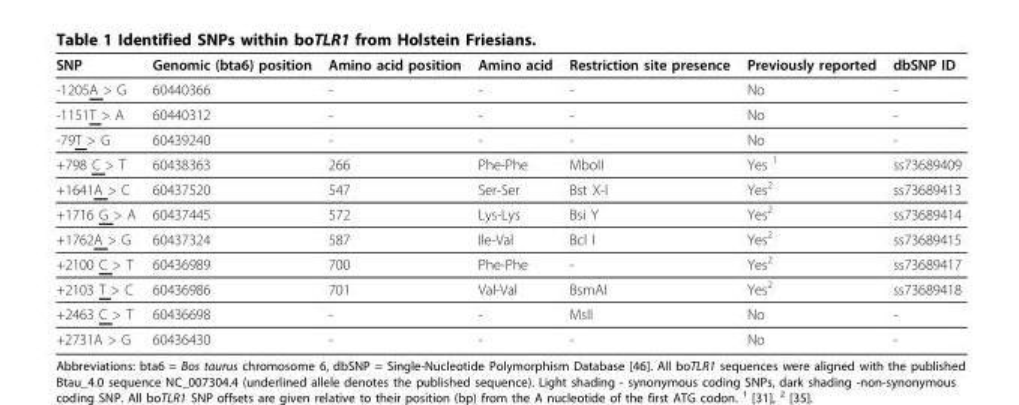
<table><thead><tr><td>SNP</td><td>Genomic (bta6) position</td><td>Amino acid position</td><td>Amino acid</td><td>Restriction site presence</td><td>Previously reported</td><td>dbSNP ID</td></tr></thead><tbody><tr><td>-1205A &gt; G</td><td>60440366</td><td>-</td><td>-</td><td>-</td><td>No</td><td>-</td></tr><tr><td>-1151T &gt; A</td><td>60440312</td><td>-</td><td>-</td><td>-</td><td>No</td><td>-</td></tr><tr><td>-79T &gt; G</td><td>60439240</td><td>-</td><td>-</td><td>-</td><td>No</td><td>-</td></tr><tr><td>+798 C &gt; T</td><td>60438363</td><td>266</td><td>Phe-Phe</td><td>MboII</td><td>Yes <sup>1</sup></td><td>ss73689409</td></tr><tr><td>+1641A &gt; C</td><td>60437520</td><td>547</td><td>Ser-Ser</td><td>Bst X-I</td><td>Yes<sup>2</sup></td><td>ss73689413</td></tr><tr><td>+1716 G &gt; A</td><td>60437445</td><td>572</td><td>Lys-Lys</td><td>Bsi Y</td><td>Yes<sup>2</sup></td><td>ss73689414</td></tr><tr><td>+1762A &gt; G</td><td>60437324</td><td>587</td><td>Ile-Val</td><td>Bcl I</td><td>Yes<sup>2</sup></td><td>ss73689415</td></tr><tr><td>+2100 C &gt; T</td><td>60436989</td><td>700</td><td>Phe-Phe</td><td>-</td><td>Yes<sup>2</sup></td><td>ss73689417</td></tr><tr><td>+2103 T &gt; C</td><td>60436986</td><td>701</td><td>Val-Val</td><td>BsmAI</td><td>Yes<sup>2</sup></td><td>ss73689418</td></tr><tr><td>+2463 C &gt; T</td><td>60436698</td><td>-</td><td>-</td><td>MsII</td><td>No</td><td>-</td></tr><tr><td>+2731A &gt; G</td><td>60436430</td><td>-</td><td>-</td><td>-</td><td>No</td><td>-</td></tr></tbody></table>